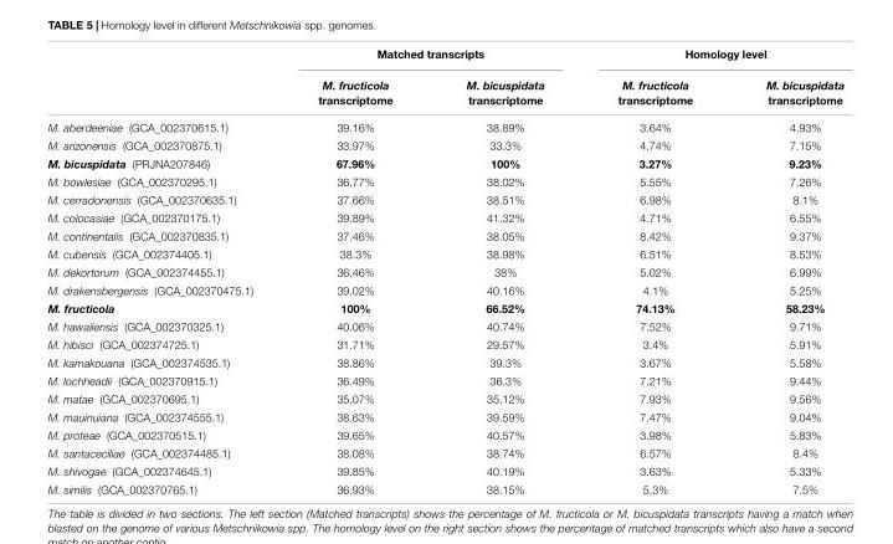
<table><thead><tr><td rowspan="2"></td><td colspan="2">Matched transcripts</td><td colspan="2">Homology level</td></tr><tr><td>M. fructicola transcriptome</td><td>M. bicuspidata transcriptome</td><td>M. fructicola transcriptome</td><td>M. bicuspidata transcriptome</td></tr></thead><tbody><tr><td>M. aberdeeniae (GCA_002370615.1)</td><td>39.16%</td><td>38.89%</td><td>3.64%</td><td>4.93%</td></tr><tr><td>M. arizonensis (GCA_002370875.1)</td><td>33.97%</td><td>33.3%</td><td>4.74%</td><td>7.15%</td></tr><tr><td>M. bicuspidata (PRJNA207846)</td><td>67.96%</td><td>100%</td><td>3.27%</td><td>9.23%</td></tr><tr><td>M. bowlesiae (GCA_002370295.1)</td><td>36.77%</td><td>38.02%</td><td>5.55%</td><td>7.26%</td></tr><tr><td>M. cerradonensis (GCA_002370635.1)</td><td>37.66%</td><td>38.51%</td><td>6.98%</td><td>8.1%</td></tr><tr><td>M. colocasiae (GCA_002370175.1)</td><td>39.89%</td><td>41.32%</td><td>4.71%</td><td>6.55%</td></tr><tr><td>M. continentalis (GCA_002370835.1)</td><td>37.46%</td><td>38.05%</td><td>8.42%</td><td>9.37%</td></tr><tr><td>M. cubensis (GCA_002374405.1)</td><td>38.3%</td><td>38.98%</td><td>6.51%</td><td>8.53%</td></tr><tr><td>M. dekortorum (GCA_002374455.1)</td><td>36.46%</td><td>38%</td><td>5.02%</td><td>6.99%</td></tr><tr><td>M. drakensbergensis (GCA_002370475.1)</td><td>39.02%</td><td>40.16%</td><td>4.1%</td><td>5.25%</td></tr><tr><td>M. fructicola</td><td>100%</td><td>66.52%</td><td>74.13%</td><td>58.23%</td></tr><tr><td>M. hawaiiensis (GCA_002370325.1)</td><td>40.06%</td><td>40.74%</td><td>7.52%</td><td>9.71%</td></tr><tr><td>M. hibisci (GCA_002374725.1)</td><td>31.71%</td><td>29.57%</td><td>3.4%</td><td>5.91%</td></tr><tr><td>M. kamakouana (GCA_002374535.1)</td><td>38.86%</td><td>39.3%</td><td>3.67%</td><td>5.58%</td></tr><tr><td>M. lochheadii (GCA_002370915.1)</td><td>36.49%</td><td>36.3%</td><td>7.21%</td><td>9.44%</td></tr><tr><td>M. matae (GCA_002370695.1)</td><td>35.07%</td><td>35.12%</td><td>7.93%</td><td>9.56%</td></tr><tr><td>M. mauinuiana (GCA_002374555.1)</td><td>38.63%</td><td>39.59%</td><td>7.47%</td><td>9.04%</td></tr><tr><td>M. proteae (GCA_002370515.1)</td><td>39.65%</td><td>40.57%</td><td>3.98%</td><td>5.83%</td></tr><tr><td>M. santaceciliae (GCA_002374485.1)</td><td>38.08%</td><td>38.74%</td><td>6.57%</td><td>8.4%</td></tr><tr><td>M. shivogae (GCA_002374645.1)</td><td>39.85%</td><td>40.19%</td><td>3.63%</td><td>5.33%</td></tr><tr><td>M. similis (GCA_002370765.1)</td><td>36.93%</td><td>38.15%</td><td>5.3%</td><td>7.5%</td></tr></tbody></table>